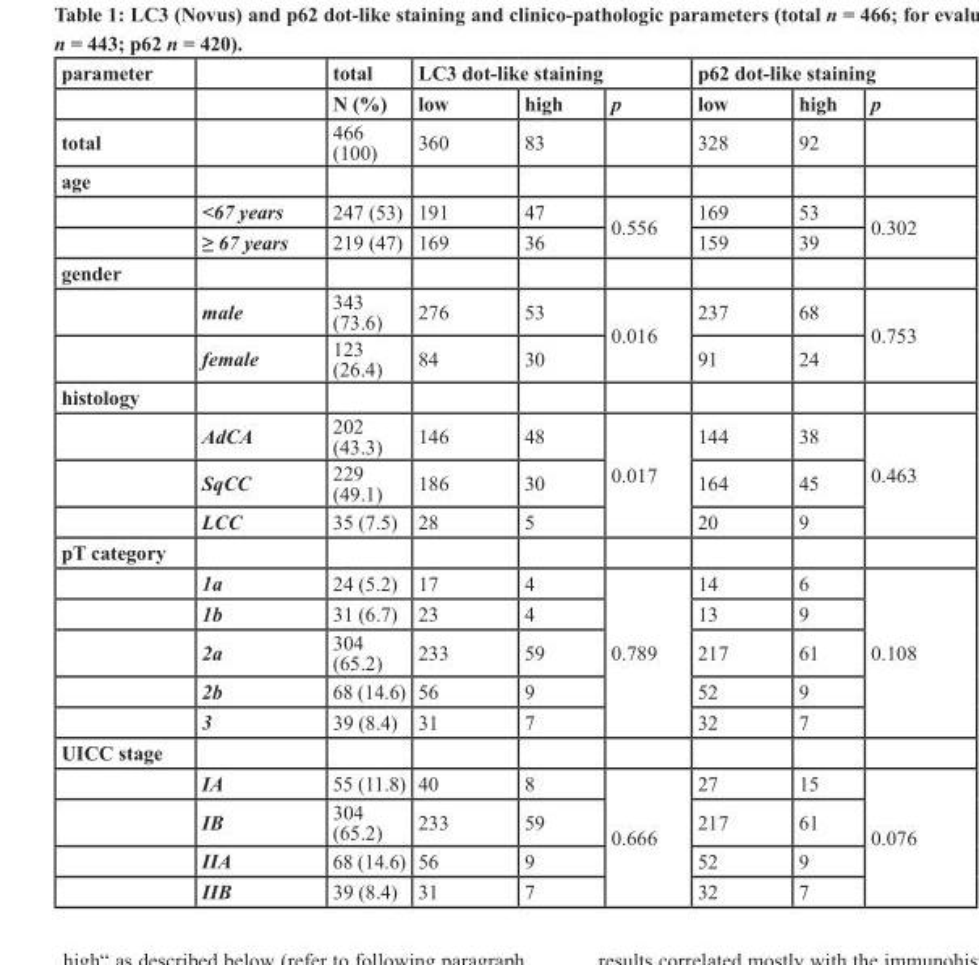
<table><thead><tr><td rowspan="2">parameter</td><td rowspan="2"></td><td rowspan="2">total n (%)</td><td colspan="3">lc3 dot-like staining</td><td colspan="3">p62 dot-like staining</td></tr><tr><td>low</td><td>high</td><td>p</td><td>low</td><td>high</td><td>p</td></tr></thead><tbody><tr><td>total</td><td></td><td>466 (100)</td><td>360</td><td>83</td><td></td><td>328</td><td>92</td><td></td></tr><tr><td colspan="9">age</td></tr><tr><td></td><td>&lt;67 years</td><td>247 (53)</td><td>191</td><td>47</td><td rowspan="2">0.556</td><td>169</td><td>53</td><td rowspan="2">0.302</td></tr><tr><td></td><td>≥ 67 years</td><td>219 (47)</td><td>169</td><td>36</td><td>159</td><td>39</td></tr><tr><td colspan="9">gender</td></tr><tr><td></td><td>male</td><td>343 (73.6)</td><td>276</td><td>53</td><td rowspan="2">0.016</td><td>237</td><td>68</td><td rowspan="2">0.753</td></tr><tr><td></td><td>female</td><td>123 (26.4)</td><td>84</td><td>30</td><td>91</td><td>24</td></tr><tr><td colspan="9">histology</td></tr><tr><td></td><td>AdCA</td><td>202 (43.3)</td><td>146</td><td>48</td><td rowspan="3">0.017</td><td>144</td><td>38</td><td rowspan="3">0.463</td></tr><tr><td></td><td>SqCC</td><td>229 (49.1)</td><td>186</td><td>30</td><td>164</td><td>45</td></tr><tr><td></td><td>LCC</td><td>35 (7.5)</td><td>28</td><td>5</td><td>20</td><td>9</td></tr><tr><td colspan="9">pt category</td></tr><tr><td></td><td>1a</td><td>24 (5.2)</td><td>17</td><td>4</td><td rowspan="5">0.789</td><td>14</td><td>6</td><td rowspan="5">0.108</td></tr><tr><td></td><td>1b</td><td>31 (6.7)</td><td>23</td><td>4</td><td>13</td><td>9</td></tr><tr><td></td><td>2a</td><td>304 (65.2)</td><td>233</td><td>59</td><td>217</td><td>61</td></tr><tr><td></td><td>2b</td><td>68 (14.6)</td><td>56</td><td>9</td><td>52</td><td>9</td></tr><tr><td></td><td>3</td><td>39 (8.4)</td><td>31</td><td>7</td><td>32</td><td>7</td></tr><tr><td colspan="9">uIcc stage</td></tr><tr><td></td><td>IA</td><td>55 (11.8)</td><td>40</td><td>8</td><td rowspan="4">0.666</td><td>27</td><td>15</td><td rowspan="4">0.076</td></tr><tr><td></td><td>IB</td><td>304 (65.2)</td><td>233</td><td>59</td><td>217</td><td>61</td></tr><tr><td></td><td>IIA</td><td>68 (14.6)</td><td>56</td><td>9</td><td>52</td><td>9</td></tr><tr><td></td><td>IIB</td><td>39 (8.4)</td><td>31</td><td>7</td><td>32</td><td>7</td></tr></tbody></table>